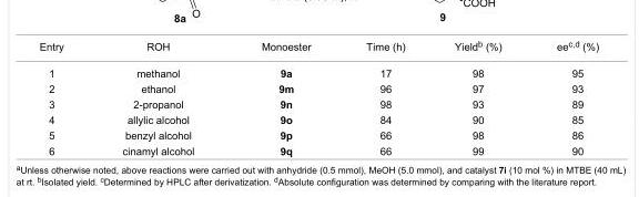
<table><tbody><tr><td>Entry</td><td>ROH</td><td>Monoester</td><td>Time (h)</td><td>Yield<sup>b</sup> (%)</td><td>ee<sup>c,d</sup> (%)</td></tr><tr><td>1</td><td>methanol</td><td>9a</td><td>17</td><td>98</td><td>95</td></tr><tr><td>2</td><td>ethanol</td><td>9m</td><td>96</td><td>97</td><td>93</td></tr><tr><td>3</td><td>2-propanol</td><td>9n</td><td>98</td><td>93</td><td>89</td></tr><tr><td>4</td><td>allylic alcohol</td><td>9o</td><td>84</td><td>90</td><td>85</td></tr><tr><td>5</td><td>benzyl alcohol</td><td>9p</td><td>66</td><td>98</td><td>86</td></tr><tr><td>6</td><td>cinamyl alcohol</td><td>9q</td><td>66</td><td>99</td><td>90</td></tr></tbody></table>